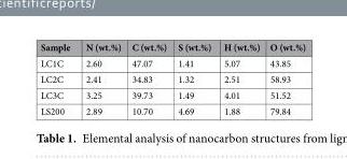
<table><thead><tr><td>Sample</td><td>N (wt.%)</td><td>C (wt.%)</td><td>S (wt.%)</td><td>H (wt.%)</td><td>O (wt.%)</td></tr></thead><tbody><tr><td>LC1C</td><td>2.60</td><td>47.07</td><td>1.41</td><td>5.07</td><td>43.85</td></tr><tr><td>LC2C</td><td>2.41</td><td>34.83</td><td>1.32</td><td>2.51</td><td>58.93</td></tr><tr><td>LC3C</td><td>3.25</td><td>39.73</td><td>1.49</td><td>4.01</td><td>51.52</td></tr><tr><td>LS200</td><td>2.89</td><td>10.70</td><td>4.69</td><td>1.88</td><td>79.84</td></tr></tbody></table>